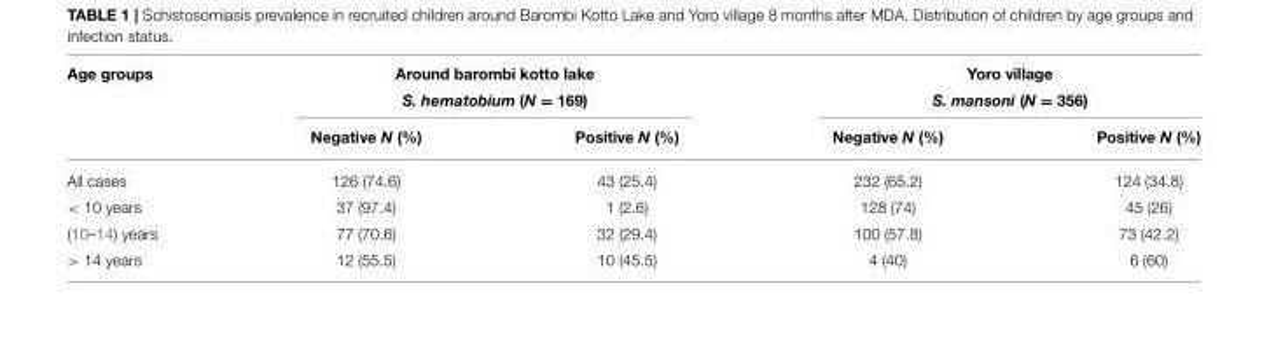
<table><thead><tr><td rowspan="2">Age groups</td><td colspan="2">Around barombi kotto lake S. hematobium (N = 169)</td><td colspan="2">Yoro village S. mansoni (N = 356)</td></tr><tr><td>Negative N (%)</td><td>Positive N (%)</td><td>Negative N (%)</td><td>Positive N (%)</td></tr></thead><tbody><tr><td>All cases</td><td>126 (74.6)</td><td>43 (25.4)</td><td>232 (65.2)</td><td>124 (34.8)</td></tr><tr><td>&lt; 10 years</td><td>37 (97.4)</td><td>1 (2.6)</td><td>128 (74)</td><td>45 (26)</td></tr><tr><td>(10–14) years</td><td>77 (70.6)</td><td>32 (29.4)</td><td>100 (57.8)</td><td>73 (42.2)</td></tr><tr><td>&gt; 14 years</td><td>12 (55.5)</td><td>10 (45.5)</td><td>4 (40)</td><td>6 (60)</td></tr></tbody></table>